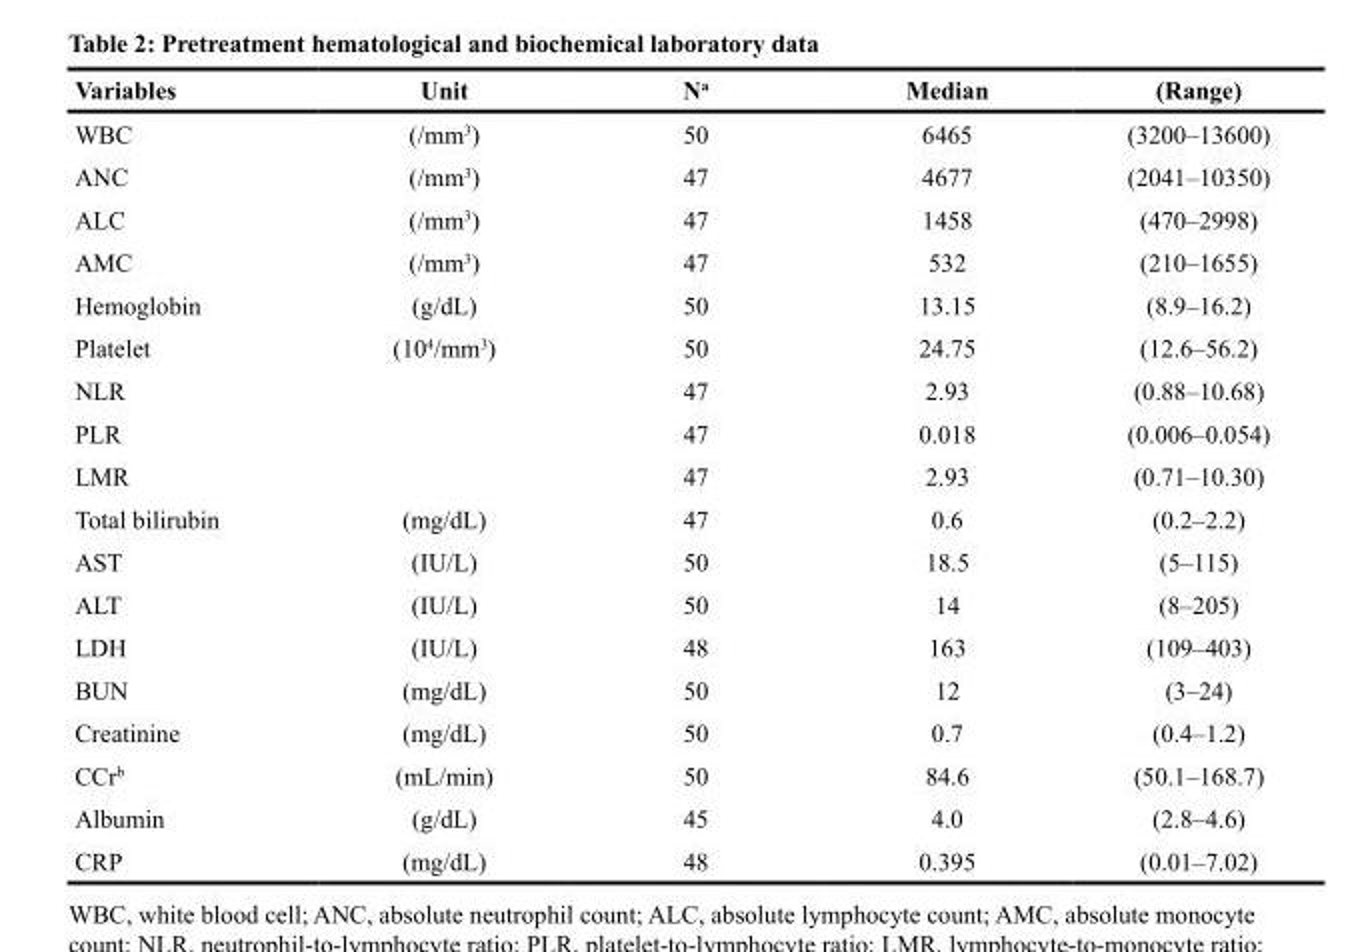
<table><thead><tr><td>Variables</td><td>Unit</td><td>N<sup>a</sup></td><td>Median</td><td>(Range)</td></tr></thead><tbody><tr><td>WBC</td><td>(/mm<sup>3</sup>)</td><td>50</td><td>6465</td><td>(3200–13600)</td></tr><tr><td>ANC</td><td>(/mm<sup>3</sup>)</td><td>47</td><td>4677</td><td>(2041–10350)</td></tr><tr><td>ALC</td><td>(/mm<sup>3</sup>)</td><td>47</td><td>1458</td><td>(470–2998)</td></tr><tr><td>AMC</td><td>(/mm<sup>3</sup>)</td><td>47</td><td>532</td><td>(210–1655)</td></tr><tr><td>Hemoglobin</td><td>(g/dL)</td><td>50</td><td>13.15</td><td>(8.9–16.2)</td></tr><tr><td>Platelet</td><td>(10<sup>4</sup>/mm<sup>3</sup>)</td><td>50</td><td>24.75</td><td>(12.6–56.2)</td></tr><tr><td>NLR</td><td></td><td>47</td><td>2.93</td><td>(0.88–10.68)</td></tr><tr><td>PLR</td><td></td><td>47</td><td>0.018</td><td>(0.006–0.054)</td></tr><tr><td>LMR</td><td></td><td>47</td><td>2.93</td><td>(0.71–10.30)</td></tr><tr><td>Total bilirubin</td><td>(mg/dL)</td><td>47</td><td>0.6</td><td>(0.2–2.2)</td></tr><tr><td>AST</td><td>(IU/L)</td><td>50</td><td>18.5</td><td>(5–115)</td></tr><tr><td>ALT</td><td>(IU/L)</td><td>50</td><td>14</td><td>(8–205)</td></tr><tr><td>LDH</td><td>(IU/L)</td><td>48</td><td>163</td><td>(109–403)</td></tr><tr><td>BUN</td><td>(mg/dL)</td><td>50</td><td>12</td><td>(3–24)</td></tr><tr><td>Creatinine</td><td>(mg/dL)</td><td>50</td><td>0.7</td><td>(0.4–1.2)</td></tr><tr><td>CCr<sup>b</sup></td><td>(mL/min)</td><td>50</td><td>84.6</td><td>(50.1–168.7)</td></tr><tr><td>Albumin</td><td>(g/dL)</td><td>45</td><td>4.0</td><td>(2.8–4.6)</td></tr><tr><td>CRP</td><td>(mg/dL)</td><td>48</td><td>0.395</td><td>(0.01–7.02)</td></tr></tbody></table>